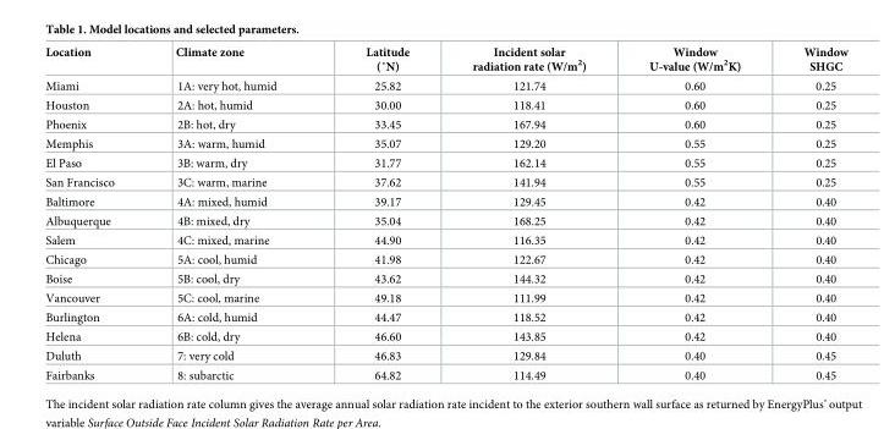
<table><thead><tr><td>Location</td><td>Climate zone</td><td>Latitude (˚N)</td><td>Incident solar radiation rate (W/m<sup>2</sup>)</td><td>Window U-value (W/m<sup>2</sup>K)</td><td>Window SHGC</td></tr></thead><tbody><tr><td>Miami</td><td>1A: very hot, humid</td><td>25.82</td><td>121.74</td><td>0.60</td><td>0.25</td></tr><tr><td>Houston</td><td>2A: hot, humid</td><td>30.00</td><td>118.41</td><td>0.60</td><td>0.25</td></tr><tr><td>Phoenix</td><td>2B: hot, dry</td><td>33.45</td><td>167.94</td><td>0.60</td><td>0.25</td></tr><tr><td>Memphis</td><td>3A: warm, humid</td><td>35.07</td><td>129.20</td><td>0.55</td><td>0.25</td></tr><tr><td>El Paso</td><td>3B: warm, dry</td><td>31.77</td><td>162.14</td><td>0.55</td><td>0.25</td></tr><tr><td>San Francisco</td><td>3C: warm, marine</td><td>37.62</td><td>141.94</td><td>0.55</td><td>0.25</td></tr><tr><td>Baltimore</td><td>4A: mixed, humid</td><td>39.17</td><td>129.45</td><td>0.42</td><td>0.40</td></tr><tr><td>Albuquerque</td><td>4B: mixed, dry</td><td>35.04</td><td>168.25</td><td>0.42</td><td>0.40</td></tr><tr><td>Salem</td><td>4C: mixed, marine</td><td>44.90</td><td>116.35</td><td>0.42</td><td>0.40</td></tr><tr><td>Chicago</td><td>5A: cool, humid</td><td>41.98</td><td>122.67</td><td>0.42</td><td>0.40</td></tr><tr><td>Boise</td><td>5B: cool, dry</td><td>43.62</td><td>144.32</td><td>0.42</td><td>0.40</td></tr><tr><td>Vancouver</td><td>5C: cool, marine</td><td>49.18</td><td>111.99</td><td>0.42</td><td>0.40</td></tr><tr><td>Burlington</td><td>6A: cold, humid</td><td>44.47</td><td>118.52</td><td>0.42</td><td>0.40</td></tr><tr><td>Helena</td><td>6B: cold, dry</td><td>46.60</td><td>143.85</td><td>0.42</td><td>0.40</td></tr><tr><td>Duluth</td><td>7: very cold</td><td>46.83</td><td>129.84</td><td>0.40</td><td>0.45</td></tr><tr><td>Fairbanks</td><td>8: subarctic</td><td>64.82</td><td>114.49</td><td>0.40</td><td>0.45</td></tr></tbody></table>